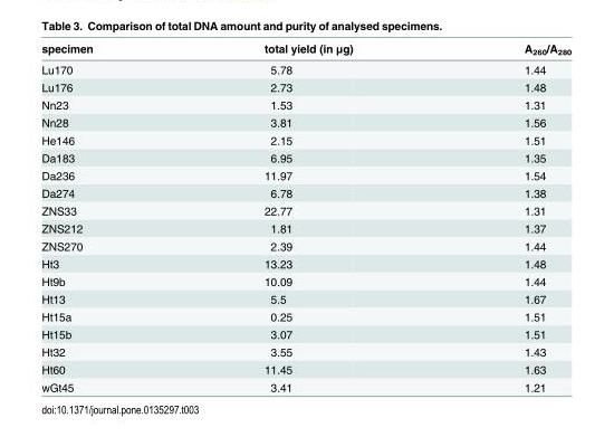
<table><thead><tr><td>specimen</td><td>total yield (in μg)</td><td>A<sub>260</sub>/A<sub>280</sub></td></tr></thead><tbody><tr><td>Lu170</td><td>5.78</td><td>1.44</td></tr><tr><td>Lu176</td><td>2.73</td><td>1.48</td></tr><tr><td>Nn23</td><td>1.53</td><td>1.31</td></tr><tr><td>Nn28</td><td>3.81</td><td>1.56</td></tr><tr><td>He146</td><td>2.15</td><td>1.51</td></tr><tr><td>Da183</td><td>6.95</td><td>1.35</td></tr><tr><td>Da236</td><td>11.97</td><td>1.54</td></tr><tr><td>Da274</td><td>6.78</td><td>1.38</td></tr><tr><td>ZNS33</td><td>22.77</td><td>1.31</td></tr><tr><td>ZNS212</td><td>1.81</td><td>1.37</td></tr><tr><td>ZNS270</td><td>2.39</td><td>1.44</td></tr><tr><td>Ht3</td><td>13.23</td><td>1.48</td></tr><tr><td>Ht9b</td><td>10.09</td><td>1.44</td></tr><tr><td>Ht13</td><td>5.5</td><td>1.67</td></tr><tr><td>Ht15a</td><td>0.25</td><td>1.51</td></tr><tr><td>Ht15b</td><td>3.07</td><td>1.51</td></tr><tr><td>Ht32</td><td>3.55</td><td>1.43</td></tr><tr><td>Ht60</td><td>11.45</td><td>1.63</td></tr><tr><td>wGt45</td><td>3.41</td><td>1.21</td></tr></tbody></table>